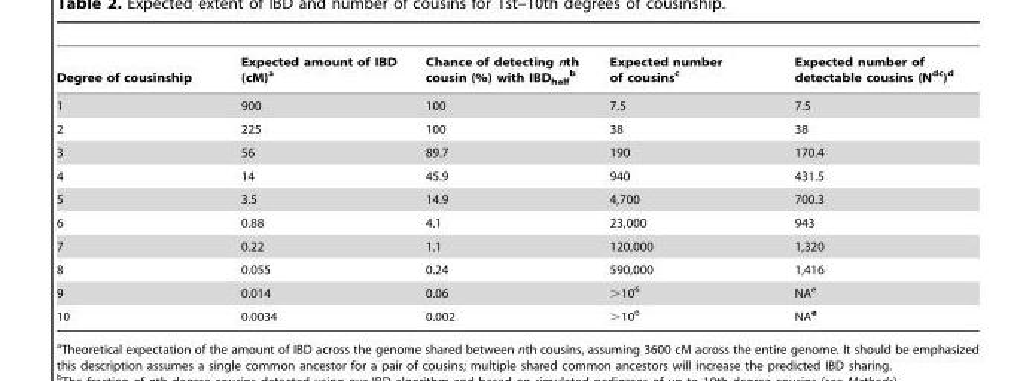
<table><thead><tr><td>Degree of cousinship</td><td>Expected amount of IBD (cM)<sup>a</sup></td><td>Chance of detecting nth cousin (%) with IBD<sub>half</sub> b</td><td>Expected number of cousins<sup>c</sup></td><td>Expected number of detectable cousins (N<sup>dc</sup>)<sup>d</sup></td></tr></thead><tbody><tr><td>1</td><td>900</td><td>100</td><td>7.5</td><td>7.5</td></tr><tr><td>2</td><td>225</td><td>100</td><td>38</td><td>38</td></tr><tr><td>3</td><td>56</td><td>89.7</td><td>190</td><td>170.4</td></tr><tr><td>4</td><td>14</td><td>45.9</td><td>940</td><td>431.5</td></tr><tr><td>5</td><td>3.5</td><td>14.9</td><td>4,700</td><td>700.3</td></tr><tr><td>6</td><td>0.88</td><td>4.1</td><td>23,000</td><td>943</td></tr><tr><td>7</td><td>0.22</td><td>1.1</td><td>120,000</td><td>1,320</td></tr><tr><td>8</td><td>0.055</td><td>0.24</td><td>590,000</td><td>1,416</td></tr><tr><td>9</td><td>0.014</td><td>0.06</td><td>&gt;10<sup>6</sup></td><td>NA<sup>e</sup></td></tr><tr><td>10</td><td>0.0034</td><td>0.002</td><td>&gt;10<sup>6</sup></td><td>NA<sup>e</sup></td></tr></tbody></table>